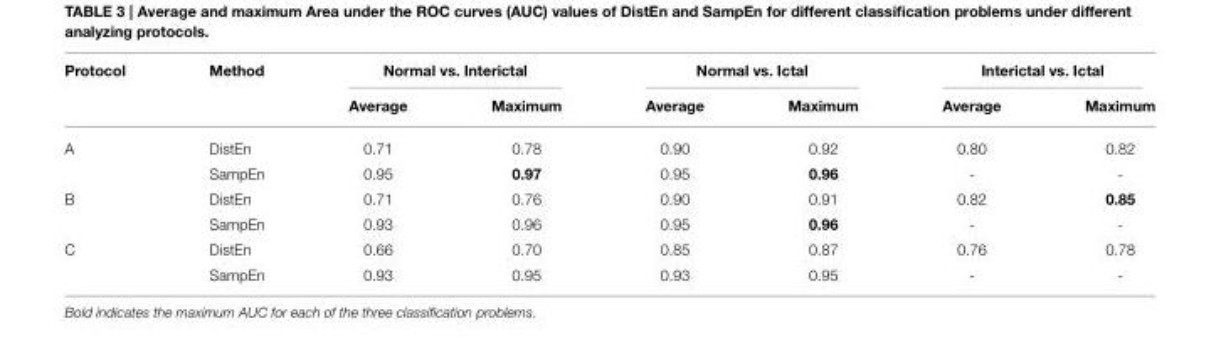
<table><thead><tr><td rowspan="2">Protocol</td><td rowspan="2">Method</td><td colspan="2">Normal vs. Interictal</td><td colspan="2">Normal vs. Ictal</td><td colspan="2">Interictal vs. Ictal</td></tr><tr><td>Average</td><td>Maximum</td><td>Average</td><td>Maximum</td><td>Average</td><td>Maximum</td></tr></thead><tbody><tr><td rowspan="2">A</td><td>DistEn</td><td>0.71</td><td>0.78</td><td>0.90</td><td>0.92</td><td>0.80</td><td>0.82</td></tr><tr><td>SampEn</td><td>0.95</td><td>0.97</td><td>0.95</td><td>0.96</td><td>-</td><td>-</td></tr><tr><td rowspan="2">B</td><td>DistEn</td><td>0.71</td><td>0.76</td><td>0.90</td><td>0.91</td><td>0.82</td><td>0.85</td></tr><tr><td>SampEn</td><td>0.93</td><td>0.96</td><td>0.95</td><td>0.96</td><td>-</td><td>-</td></tr><tr><td rowspan="2">C</td><td>DistEn</td><td>0.66</td><td>0.70</td><td>0.85</td><td>0.87</td><td>0.76</td><td>0.78</td></tr><tr><td>SampEn</td><td>0.93</td><td>0.95</td><td>0.93</td><td>0.95</td><td>-</td><td>-</td></tr></tbody></table>